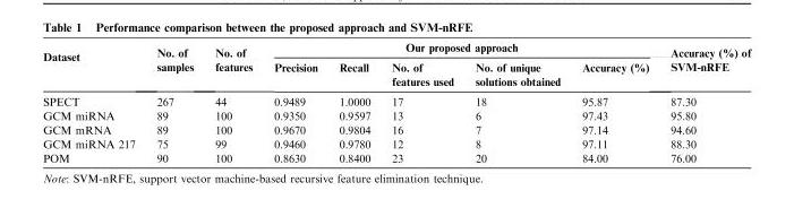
<table><thead><tr><td rowspan="2">Dataset</td><td rowspan="2">No. of samples</td><td rowspan="2">No. of features</td><td colspan="5">Our proposed approach</td><td rowspan="2">Accuracy (%) of SVM-nRFE</td></tr><tr><td>Precision</td><td>Recall</td><td>No. of features used</td><td>No. of unique solutions obtained</td><td>Accuracy (%)</td></tr></thead><tbody><tr><td>SPECT</td><td>267</td><td>44</td><td>0.9489</td><td>1.0000</td><td>17</td><td>18</td><td>95.87</td><td>87.30</td></tr><tr><td>GCM miRNA</td><td>89</td><td>100</td><td>0.9350</td><td>0.9597</td><td>13</td><td>6</td><td>97.43</td><td>95.80</td></tr><tr><td>GCM mRNA</td><td>89</td><td>100</td><td>0.9670</td><td>0.9804</td><td>16</td><td>7</td><td>97.14</td><td>94.60</td></tr><tr><td>GCM miRNA 217</td><td>75</td><td>99</td><td>0.9460</td><td>0.9780</td><td>12</td><td>8</td><td>97.11</td><td>88.30</td></tr><tr><td>POM</td><td>90</td><td>100</td><td>0.8630</td><td>0.8400</td><td>23</td><td>20</td><td>84.00</td><td>76.00</td></tr></tbody></table>